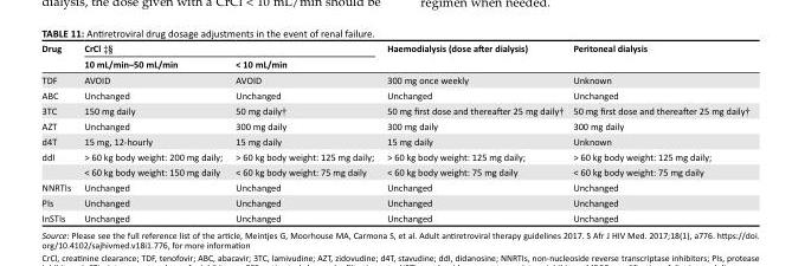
<table><thead><tr><td rowspan="2">Drug</td><td colspan="2">CrCl ‡§</td><td rowspan="2">Haemodialysis (dose after dialysis)</td><td rowspan="2">Peritoneal dialysis</td></tr><tr><td>10 mL/min–50 mL/min</td><td>&lt; 10 mL/min</td></tr></thead><tbody><tr><td>TDF</td><td>AVOID</td><td>AVOID</td><td>300 mg once weekly</td><td>Unknown</td></tr><tr><td>ABC</td><td>Unchanged</td><td>Unchanged</td><td>Unchanged</td><td>Unchanged</td></tr><tr><td>3TC</td><td>150 mg daily</td><td>50 mg daily†</td><td>50 mg first dose and thereafter 25 mg daily†</td><td>50 mg first dose and thereafter 25 mg daily†</td></tr><tr><td>AZT</td><td>Unchanged</td><td>300 mg daily</td><td>300 mg daily</td><td>300 mg daily</td></tr><tr><td>d4T</td><td>15 mg, 12-hourly</td><td>15 mg daily</td><td>15 mg daily</td><td>Unknown</td></tr><tr><td rowspan="2">ddI</td><td>&gt; 60 kg body weight: 200 mg daily;</td><td>&gt; 60 kg body weight: 125 mg daily;</td><td>&gt; 60 kg body weight: 125 mg daily;</td><td>&gt; 60 kg body weight: 125 mg daily;</td></tr><tr><td>&lt; 60 kg body weight: 150 mg daily</td><td>&lt; 60 kg body weight: 75 mg daily</td><td>&lt; 60 kg body weight: 75 mg daily</td><td>&lt; 60 kg body weight: 75 mg daily</td></tr><tr><td>NNRTIs</td><td>Unchanged</td><td>Unchanged</td><td>Unchanged</td><td>Unchanged</td></tr><tr><td>PIs</td><td>Unchanged</td><td>Unchanged</td><td>Unchanged</td><td>Unchanged</td></tr><tr><td>InSTIs</td><td>Unchanged</td><td>Unchanged</td><td>Unchanged</td><td>Unchanged</td></tr></tbody></table>